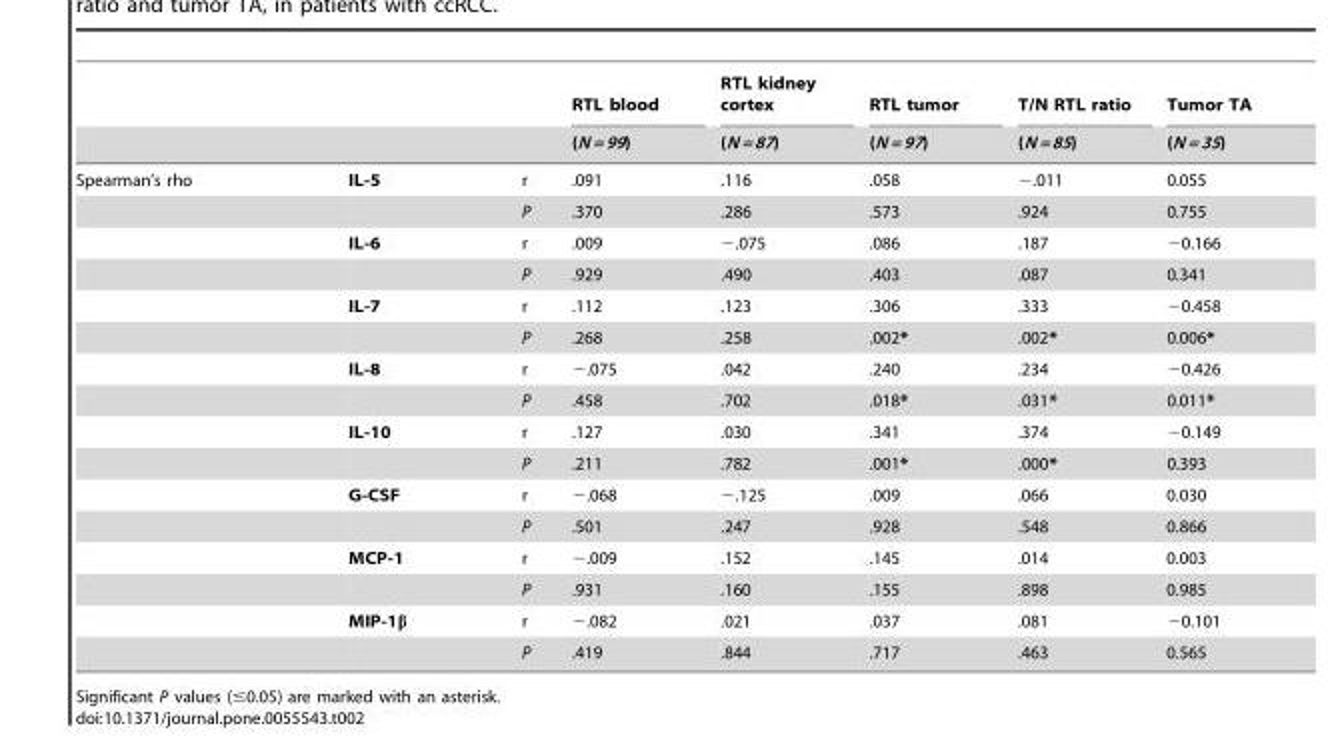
<table><thead><tr><td rowspan="2"></td><td rowspan="2"></td><td rowspan="2"></td><td rowspan="2">RTL blood (N = 99)</td><td rowspan="2">RTL kidney cortex (N = 87)</td><td rowspan="2">RTL tumor (N = 97)</td><td rowspan="2">T/N RTL ratio (N = 85)</td><td rowspan="2">Tumor TA (N = 35)</td></tr><tr></tr></thead><tbody><tr><td rowspan="16">Spearman’s rho</td><td>IL-5</td><td>r</td><td>.091</td><td>.116</td><td>.058</td><td>−.011</td><td>0.055</td></tr><tr><td></td><td>P</td><td>.370</td><td>.286</td><td>.573</td><td>.924</td><td>0.755</td></tr><tr><td>IL-6</td><td>r</td><td>.009</td><td>−.075</td><td>.086</td><td>.187</td><td>−0.166</td></tr><tr><td></td><td>P</td><td>.929</td><td>.490</td><td>.403</td><td>.087</td><td>0.341</td></tr><tr><td>IL-7</td><td>r</td><td>.112</td><td>.123</td><td>.306</td><td>.333</td><td>−0.458</td></tr><tr><td></td><td>P</td><td>.268</td><td>.258</td><td>.002*</td><td>.002*</td><td>0.006*</td></tr><tr><td>IL-8</td><td>r</td><td>−.075</td><td>.042</td><td>.240</td><td>.234</td><td>−0.426</td></tr><tr><td></td><td>P</td><td>.458</td><td>.702</td><td>.018*</td><td>.031*</td><td>0.011*</td></tr><tr><td>IL-10</td><td>r</td><td>.127</td><td>.030</td><td>.341</td><td>.374</td><td>−0.149</td></tr><tr><td></td><td>P</td><td>.211</td><td>.782</td><td>.001*</td><td>.000*</td><td>0.393</td></tr><tr><td>G-CSF</td><td>r</td><td>−.068</td><td>−.125</td><td>.009</td><td>.066</td><td>0.030</td></tr><tr><td></td><td>P</td><td>.501</td><td>.247</td><td>.928</td><td>.548</td><td>0.866</td></tr><tr><td>MCP-1</td><td>r</td><td>−.009</td><td>.152</td><td>.145</td><td>.014</td><td>0.003</td></tr><tr><td></td><td>P</td><td>.931</td><td>.160</td><td>.155</td><td>.898</td><td>0.985</td></tr><tr><td>MIP-1β</td><td>r</td><td>−.082</td><td>.021</td><td>.037</td><td>.081</td><td>−0.101</td></tr><tr><td></td><td>P</td><td>.419</td><td>.844</td><td>.717</td><td>.463</td><td>0.565</td></tr></tbody></table>